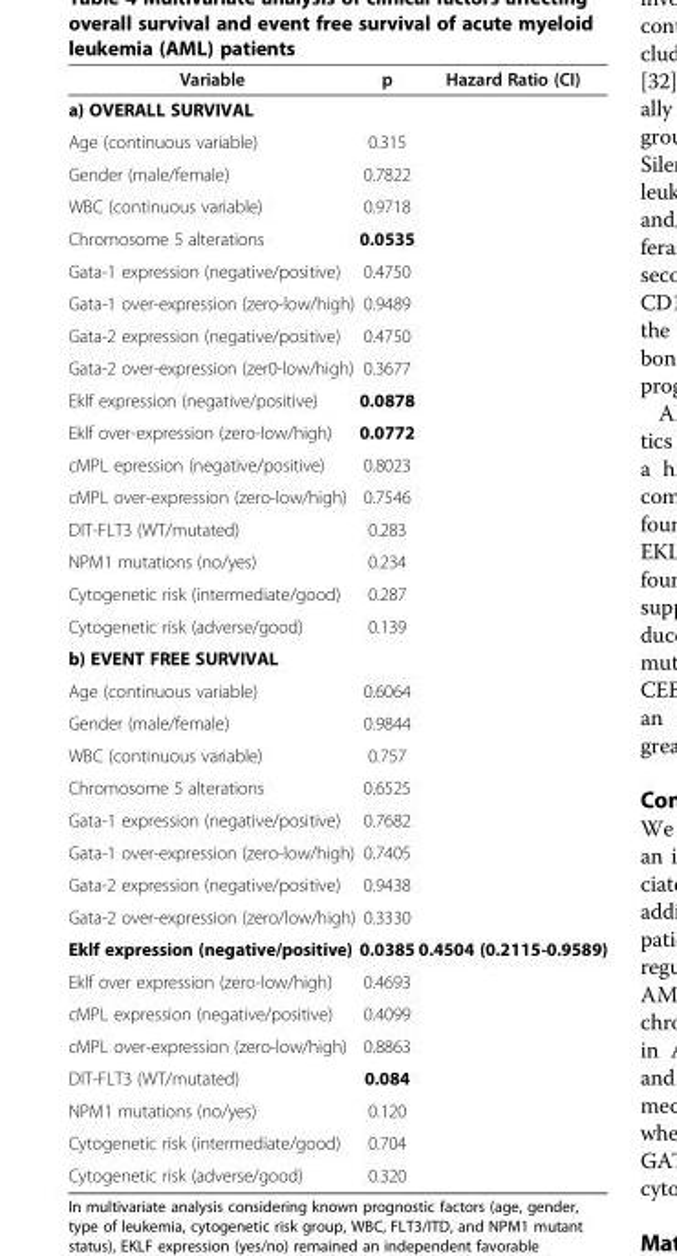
<table><thead><tr><td>Variable</td><td>p</td><td>Hazard Ratio (CI)</td></tr></thead><tbody><tr><td colspan="3">a) OVERALL SURVIVAL</td></tr><tr><td>Age (continuous variable)</td><td>0.315</td><td></td></tr><tr><td>Gender (male/female)</td><td>0.7822</td><td></td></tr><tr><td>WBC (continuous variable)</td><td>0.9718</td><td></td></tr><tr><td>Chromosome 5 alterations</td><td>0.0535</td><td></td></tr><tr><td>Gata-1 expression (negative/positive)</td><td>0.4750</td><td></td></tr><tr><td>Gata-1 over-expression (zero-low/high)</td><td>0.9489</td><td></td></tr><tr><td>Gata-2 expression (negative/positive)</td><td>0.4750</td><td></td></tr><tr><td>Gata-2 over-expression (zer0-low/high)</td><td>0.3677</td><td></td></tr><tr><td>Eklf expression (negative/positive)</td><td>0.0878</td><td></td></tr><tr><td>Eklf over-expression (zero-low/high)</td><td>0.0772</td><td></td></tr><tr><td>cMPL epression (negative/positive)</td><td>0.8023</td><td></td></tr><tr><td>cMPL over-expression (zero-low/high)</td><td>0.7546</td><td></td></tr><tr><td>DIT-FLT3 (WT/mutated)</td><td>0.283</td><td></td></tr><tr><td>NPM1 mutations (no/yes)</td><td>0.234</td><td></td></tr><tr><td>Cytogenetic risk (intermediate/good)</td><td>0.287</td><td></td></tr><tr><td>Cytogenetic risk (adverse/good)</td><td>0.139</td><td></td></tr><tr><td colspan="3">b) EVENT FREE SURVIVAL</td></tr><tr><td>Age (continuous variable)</td><td>0.6064</td><td></td></tr><tr><td>Gender (male/female)</td><td>0.9844</td><td></td></tr><tr><td>WBC (continuous variable)</td><td>0.757</td><td></td></tr><tr><td>Chromosome 5 alterations</td><td>0.6525</td><td></td></tr><tr><td>Gata-1 expression (negative/positive)</td><td>0.7682</td><td></td></tr><tr><td>Gata-1 over-expression (zero-low/high)</td><td>0.7405</td><td></td></tr><tr><td>Gata-2 expression (negative/positive)</td><td>0.9438</td><td></td></tr><tr><td>Gata-2 over-expression (zero/low/high)</td><td>0.3330</td><td></td></tr><tr><td>Eklf expression (negative/positive)</td><td>0.0385</td><td>0.4504 (0.2115-0.9589)</td></tr><tr><td>Eklf over expression (zero-low/high)</td><td>0.4693</td><td></td></tr><tr><td>cMPL expression (negative/positive)</td><td>0.4099</td><td></td></tr><tr><td>cMPL over-expression (zero-low/high)</td><td>0.8863</td><td></td></tr><tr><td>DIT-FLT3 (WT/mutated)</td><td>0.084</td><td></td></tr><tr><td>NPM1 mutations (no/yes)</td><td>0.120</td><td></td></tr><tr><td>Cytogenetic risk (intermediate/good)</td><td>0.704</td><td></td></tr><tr><td>Cytogenetic risk (adverse/good)</td><td>0.320</td><td></td></tr></tbody></table>